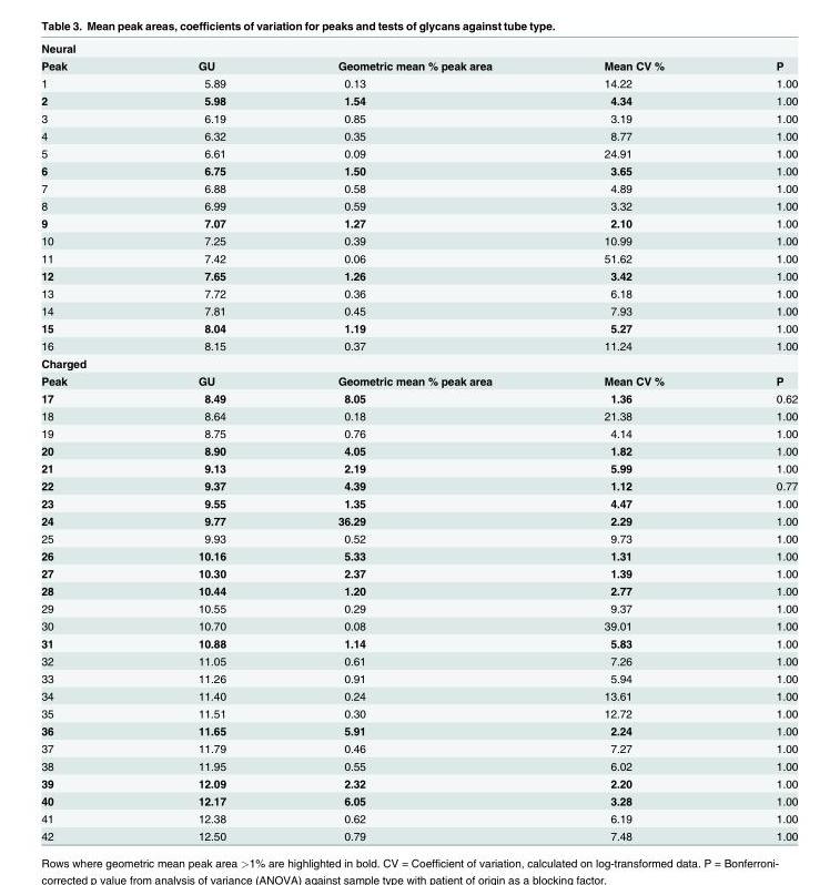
<table><tbody><tr><td colspan="5">Neural</td></tr><tr><td>Peak</td><td>GU</td><td>Geometric mean % peak area</td><td>Mean CV %</td><td>P</td></tr><tr><td>1</td><td>5.89</td><td>0.13</td><td>14.22</td><td>1.00</td></tr><tr><td>2</td><td>5.98</td><td>1.54</td><td>4.34</td><td>1.00</td></tr><tr><td>3</td><td>6.19</td><td>0.85</td><td>3.19</td><td>1.00</td></tr><tr><td>4</td><td>6.32</td><td>0.35</td><td>8.77</td><td>1.00</td></tr><tr><td>5</td><td>6.61</td><td>0.09</td><td>24.91</td><td>1.00</td></tr><tr><td>6</td><td>6.75</td><td>1.50</td><td>3.65</td><td>1.00</td></tr><tr><td>7</td><td>6.88</td><td>0.58</td><td>4.89</td><td>1.00</td></tr><tr><td>8</td><td>6.99</td><td>0.59</td><td>3.32</td><td>1.00</td></tr><tr><td>9</td><td>7.07</td><td>1.27</td><td>2.10</td><td>1.00</td></tr><tr><td>10</td><td>7.25</td><td>0.39</td><td>10.99</td><td>1.00</td></tr><tr><td>11</td><td>7.42</td><td>0.06</td><td>51.62</td><td>1.00</td></tr><tr><td>12</td><td>7.65</td><td>1.26</td><td>3.42</td><td>1.00</td></tr><tr><td>13</td><td>7.72</td><td>0.36</td><td>6.18</td><td>1.00</td></tr><tr><td>14</td><td>7.81</td><td>0.45</td><td>7.93</td><td>1.00</td></tr><tr><td>15</td><td>8.04</td><td>1.19</td><td>5.27</td><td>1.00</td></tr><tr><td>16</td><td>8.15</td><td>0.37</td><td>11.24</td><td>1.00</td></tr><tr><td colspan="5">Charged</td></tr><tr><td>Peak</td><td>GU</td><td>Geometric mean % peak area</td><td>Mean CV %</td><td>P</td></tr><tr><td>17</td><td>8.49</td><td>8.05</td><td>1.36</td><td>0.62</td></tr><tr><td>18</td><td>8.64</td><td>0.18</td><td>21.38</td><td>1.00</td></tr><tr><td>19</td><td>8.75</td><td>0.76</td><td>4.14</td><td>1.00</td></tr><tr><td>20</td><td>8.90</td><td>4.05</td><td>1.82</td><td>1.00</td></tr><tr><td>21</td><td>9.13</td><td>2.19</td><td>5.99</td><td>1.00</td></tr><tr><td>22</td><td>9.37</td><td>4.39</td><td>1.12</td><td>0.77</td></tr><tr><td>23</td><td>9.55</td><td>1.35</td><td>4.47</td><td>1.00</td></tr><tr><td>24</td><td>9.77</td><td>36.29</td><td>2.29</td><td>1.00</td></tr><tr><td>25</td><td>9.93</td><td>0.52</td><td>9.73</td><td>1.00</td></tr><tr><td>26</td><td>10.16</td><td>5.33</td><td>1.31</td><td>1.00</td></tr><tr><td>27</td><td>10.30</td><td>2.37</td><td>1.39</td><td>1.00</td></tr><tr><td>28</td><td>10.44</td><td>1.20</td><td>2.77</td><td>1.00</td></tr><tr><td>29</td><td>10.55</td><td>0.29</td><td>9.37</td><td>1.00</td></tr><tr><td>30</td><td>10.70</td><td>0.08</td><td>39.01</td><td>1.00</td></tr><tr><td>31</td><td>10.88</td><td>1.14</td><td>5.83</td><td>1.00</td></tr><tr><td>32</td><td>11.05</td><td>0.61</td><td>7.26</td><td>1.00</td></tr><tr><td>33</td><td>11.26</td><td>0.91</td><td>5.94</td><td>1.00</td></tr><tr><td>34</td><td>11.40</td><td>0.24</td><td>13.61</td><td>1.00</td></tr><tr><td>35</td><td>11.51</td><td>0.30</td><td>12.72</td><td>1.00</td></tr><tr><td>36</td><td>11.65</td><td>5.91</td><td>2.24</td><td>1.00</td></tr><tr><td>37</td><td>11.79</td><td>0.46</td><td>7.27</td><td>1.00</td></tr><tr><td>38</td><td>11.95</td><td>0.55</td><td>6.02</td><td>1.00</td></tr><tr><td>39</td><td>12.09</td><td>2.32</td><td>2.20</td><td>1.00</td></tr><tr><td>40</td><td>12.17</td><td>6.05</td><td>3.28</td><td>1.00</td></tr><tr><td>41</td><td>12.38</td><td>0.62</td><td>6.19</td><td>1.00</td></tr><tr><td>42</td><td>12.50</td><td>0.79</td><td>7.48</td><td>1.00</td></tr></tbody></table>